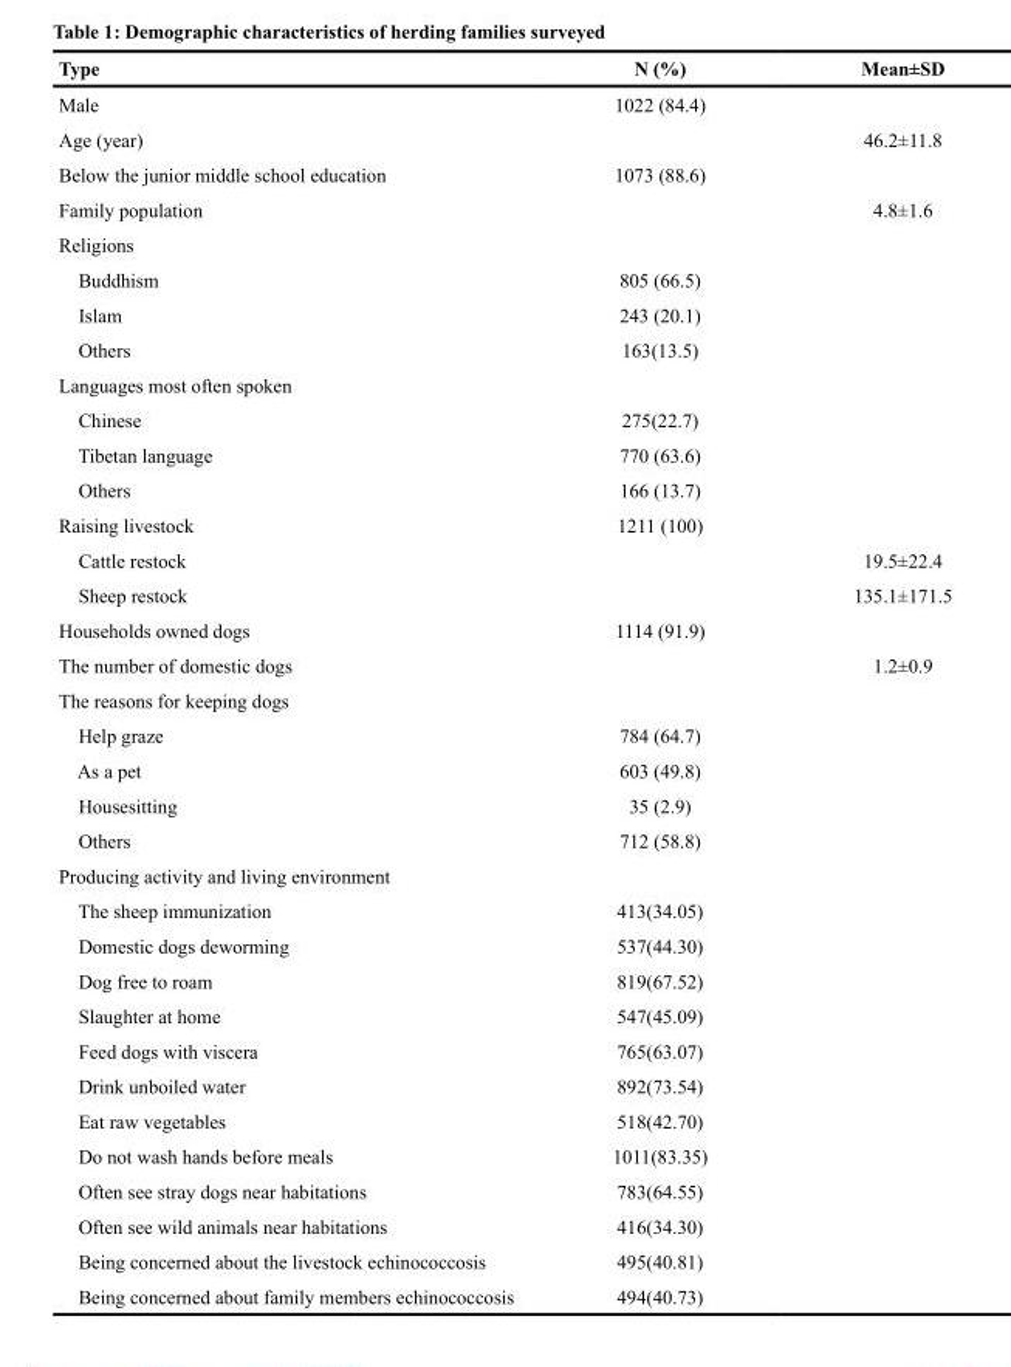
<table><thead><tr><td>Type</td><td>N (%)</td><td>Mean±SD</td></tr></thead><tbody><tr><td>Male</td><td>1022 (84.4)</td><td></td></tr><tr><td>Age (year)</td><td></td><td>46.2±11.8</td></tr><tr><td>Below the junior middle school education</td><td>1073 (88.6)</td><td></td></tr><tr><td>Family population</td><td></td><td>4.8±1.6</td></tr><tr><td colspan="3">Religions</td></tr><tr><td>Buddhism</td><td>805 (66.5)</td><td></td></tr><tr><td>Islam</td><td>243 (20.1)</td><td></td></tr><tr><td>Others</td><td>163(13.5)</td><td></td></tr><tr><td colspan="3">Languages most often spoken</td></tr><tr><td>Chinese</td><td>275(22.7)</td><td></td></tr><tr><td>Tibetan language</td><td>770 (63.6)</td><td></td></tr><tr><td>Others</td><td>166 (13.7)</td><td></td></tr><tr><td>Raising livestock</td><td>1211 (100)</td><td></td></tr><tr><td>Cattle restock</td><td></td><td>19.5±22.4</td></tr><tr><td>Sheep restock</td><td></td><td>135.1±171.5</td></tr><tr><td>Households owned dogs</td><td>1114 (91.9)</td><td></td></tr><tr><td>The number of domestic dogs</td><td></td><td>1.2±0.9</td></tr><tr><td colspan="3">The reasons for keeping dogs</td></tr><tr><td>Help graze</td><td>784 (64.7)</td><td></td></tr><tr><td>As a pet</td><td>603 (49.8)</td><td></td></tr><tr><td>Housesitting</td><td>35 (2.9)</td><td></td></tr><tr><td>Others</td><td>712 (58.8)</td><td></td></tr><tr><td colspan="3">Producing activity and living environment</td></tr><tr><td>The sheep immunization</td><td>413(34.05)</td><td></td></tr><tr><td>Domestic dogs deworming</td><td>537(44.30)</td><td></td></tr><tr><td>Dog free to roam</td><td>819(67.52)</td><td></td></tr><tr><td>Slaughter at home</td><td>547(45.09)</td><td></td></tr><tr><td>Feed dogs with viscera</td><td>765(63.07)</td><td></td></tr><tr><td>Drink unboiled water</td><td>892(73.54)</td><td></td></tr><tr><td>Eat raw vegetables</td><td>518(42.70)</td><td></td></tr><tr><td>Do not wash hands before meals</td><td>1011(83.35)</td><td></td></tr><tr><td>Often see stray dogs near habitations</td><td>783(64.55)</td><td></td></tr><tr><td>Often see wild animals near habitations</td><td>416(34.30)</td><td></td></tr><tr><td>Being concerned about the livestock echinococcosis</td><td>495(40.81)</td><td></td></tr><tr><td>Being concerned about family members echinococcosis</td><td>494(40.73)</td><td></td></tr></tbody></table>